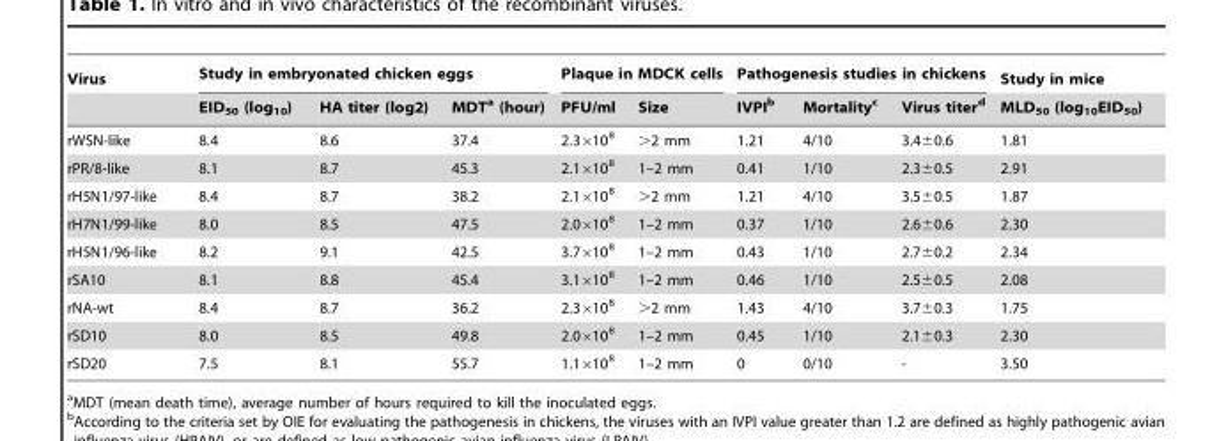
<table><thead><tr><td rowspan="2">Virus</td><td colspan="3">Study in embryonated chicken eggs</td><td colspan="2">Plaque in MDCK cells</td><td colspan="3">Pathogenesis studies in chickens</td><td rowspan="2">Study in mice MLD<sub>50</sub> (log<sub>10</sub>EID<sub>50</sub>)</td></tr><tr><td>EID<sub>50</sub> (log<sub>10</sub>)</td><td>HA titer (log2)</td><td>MDT<sup>a</sup> (hour)</td><td>PFU/ml</td><td>Size</td><td>IVPI<sup>b</sup></td><td>Mortality<sup>c</sup></td><td>Virus titer<sup>d</sup></td></tr></thead><tbody><tr><td>rWSN-like</td><td>8.4</td><td>8.6</td><td>37.4</td><td>2.3×10<sup>8</sup></td><td>&gt;2 mm</td><td>1.21</td><td>4/10</td><td>3.4±0.6</td><td>1.81</td></tr><tr><td>rPR/8-like</td><td>8.1</td><td>8.7</td><td>45.3</td><td>2.1×10<sup>8</sup></td><td>1–2 mm</td><td>0.41</td><td>1/10</td><td>2.3±0.5</td><td>2.91</td></tr><tr><td>rH5N1/97-like</td><td>8.4</td><td>8.7</td><td>38.2</td><td>2.1×10<sup>8</sup></td><td>&gt;2 mm</td><td>1.21</td><td>4/10</td><td>3.5±0.5</td><td>1.87</td></tr><tr><td>rH7N1/99-like</td><td>8.0</td><td>8.5</td><td>47.5</td><td>2.0×10<sup>8</sup></td><td>1–2 mm</td><td>0.37</td><td>1/10</td><td>2.6±0.6</td><td>2.30</td></tr><tr><td>rH5N1/96-like</td><td>8.2</td><td>9.1</td><td>42.5</td><td>3.7×10<sup>8</sup></td><td>1–2 mm</td><td>0.43</td><td>1/10</td><td>2.7±0.2</td><td>2.34</td></tr><tr><td>rSA10</td><td>8.1</td><td>8.8</td><td>45.4</td><td>3.1×10<sup>8</sup></td><td>1–2 mm</td><td>0.46</td><td>1/10</td><td>2.5±0.5</td><td>2.08</td></tr><tr><td>rNA-wt</td><td>8.4</td><td>8.7</td><td>36.2</td><td>2.3×10<sup>8</sup></td><td>&gt;2 mm</td><td>1.43</td><td>4/10</td><td>3.7±0.3</td><td>1.75</td></tr><tr><td>rSD10</td><td>8.0</td><td>8.5</td><td>49.8</td><td>2.0×10<sup>8</sup></td><td>1–2 mm</td><td>0.45</td><td>1/10</td><td>2.1±0.3</td><td>2.30</td></tr><tr><td>rSD20</td><td>7.5</td><td>8.1</td><td>55.7</td><td>1.1×10<sup>8</sup></td><td>1–2 mm</td><td>0</td><td>0/10</td><td>-</td><td>3.50</td></tr></tbody></table>